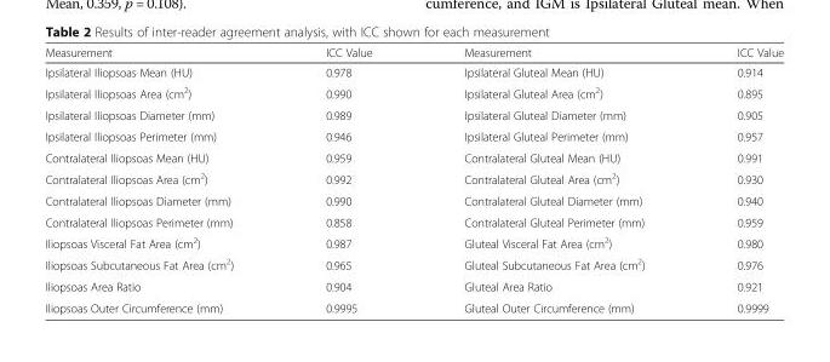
<table><thead><tr><td>Measurement</td><td>ICC Value</td><td>Measurement</td><td>ICC Value</td></tr></thead><tbody><tr><td>Ipsilateral Iliopsoas Mean (HU)</td><td>0.978</td><td>Ipsilateral Gluteal Mean (HU)</td><td>0.914</td></tr><tr><td>Ipsilateral Iliopsoas Area (cm<sup>2</sup>)</td><td>0.990</td><td>Ipsilateral Gluteal Area (cm<sup>2</sup>)</td><td>0.895</td></tr><tr><td>Ipsilateral Iliopsoas Diameter (mm)</td><td>0.989</td><td>Ipsilateral Gluteal Diameter (mm)</td><td>0.905</td></tr><tr><td>Ipsilateral Iliopsoas Perimeter (mm)</td><td>0.946</td><td>Ipsilateral Gluteal Perimeter (mm)</td><td>0.957</td></tr><tr><td>Contralateral Iliopsoas Mean (HU)</td><td>0.959</td><td>Contralateral Gluteal Mean (HU)</td><td>0.991</td></tr><tr><td>Contralateral Iliopsoas Area (cm<sup>2</sup>)</td><td>0.992</td><td>Contralateral Gluteal Area (cm<sup>2</sup>)</td><td>0.930</td></tr><tr><td>Contralateral Iliopsoas Diameter (mm)</td><td>0.990</td><td>Contralateral Gluteal Diameter (mm)</td><td>0.940</td></tr><tr><td>Contralateral Iliopsoas Perimeter (mm)</td><td>0.858</td><td>Contralateral Gluteal Perimeter (mm)</td><td>0.959</td></tr><tr><td>Iliopsoas Visceral Fat Area (cm<sup>2</sup>)</td><td>0.987</td><td>Gluteal Visceral Fat Area (cm<sup>2</sup>)</td><td>0.980</td></tr><tr><td>Iliopsoas Subcutaneous Fat Area (cm<sup>2</sup>)</td><td>0.965</td><td>Gluteal Subcutaneous Fat Area (cm<sup>2</sup>)</td><td>0.976</td></tr><tr><td>Iliopsoas Area Ratio</td><td>0.904</td><td>Gluteal Area Ratio</td><td>0.921</td></tr><tr><td>Iliopsoas Outer Circumference (mm)</td><td>0.9995</td><td>Gluteal Outer Circumference (mm)</td><td>0.9999</td></tr></tbody></table>